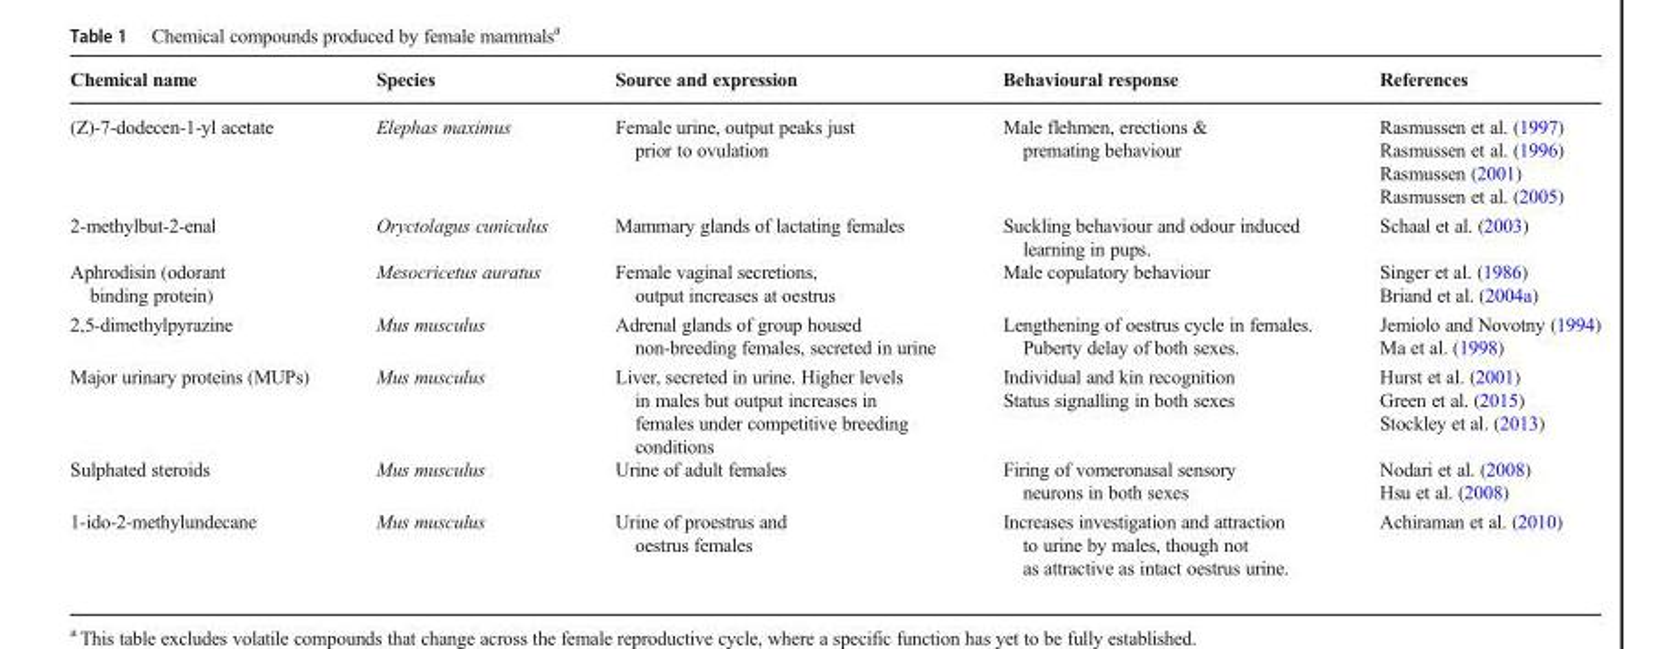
<table><thead><tr><td>Chemical name</td><td>Species</td><td>Source and expression</td><td>Behavioural response</td><td>References</td></tr></thead><tbody><tr><td>(Z)-7-dodecen-1-yl acetate</td><td>Elephas maximus</td><td>Female urine, output peaks just prior to ovulation</td><td>Male flehmen, erections &amp; premating behaviour</td><td>Rasmussen et al. (1997) Rasmussen et al. (1996) Rasmussen (2001) Rasmussen et al. (2005)</td></tr><tr><td>2-methylbut-2-enal</td><td>Oryctolagus cuniculus</td><td>Mammary glands of lactating females</td><td>Suckling behaviour and odour induced learning in pups.</td><td>Schaal et al. (2003)</td></tr><tr><td>Aphrodisin (odorant binding protein)</td><td>Mesocricetus auratus</td><td>Female vaginal secretions, output increases at oestrus</td><td>Male copulatory behaviour</td><td>Singer et al. (1986) Briand et al. (2004a)</td></tr><tr><td>2,5-dimethylpyrazine</td><td>Mus musculus</td><td>Adrenal glands of group housed non-breeding females, secreted in urine</td><td>Lengthening of oestrus cycle in females. Puberty delay of both sexes.</td><td>Jemiolo and Novotny (1994) Ma et al. (1998)</td></tr><tr><td>Major urinary proteins (MUPs)</td><td>Mus musculus</td><td>Liver, secreted in urine. Higher levels in males but output increases in females under competitive breeding conditions</td><td>Individual and kin recognition Status signalling in both sexes</td><td>Hurst et al. (2001) Green et al. (2015) Stockley et al. (2013)</td></tr><tr><td>Sulphated steroids</td><td>Mus musculus</td><td>Urine of adult females</td><td>Firing of vomeronasal sensory neurons in both sexes</td><td>Nodari et al. (2008) Hsu et al. (2008)</td></tr><tr><td>1-ido-2-methylundecane</td><td>Mus musculus</td><td>Urine of proestrus and oestrus females</td><td>Increases investigation and attraction to urine by males, though not as attractive as intact oestrus urine.</td><td>Achiraman et al. (2010)</td></tr></tbody></table>